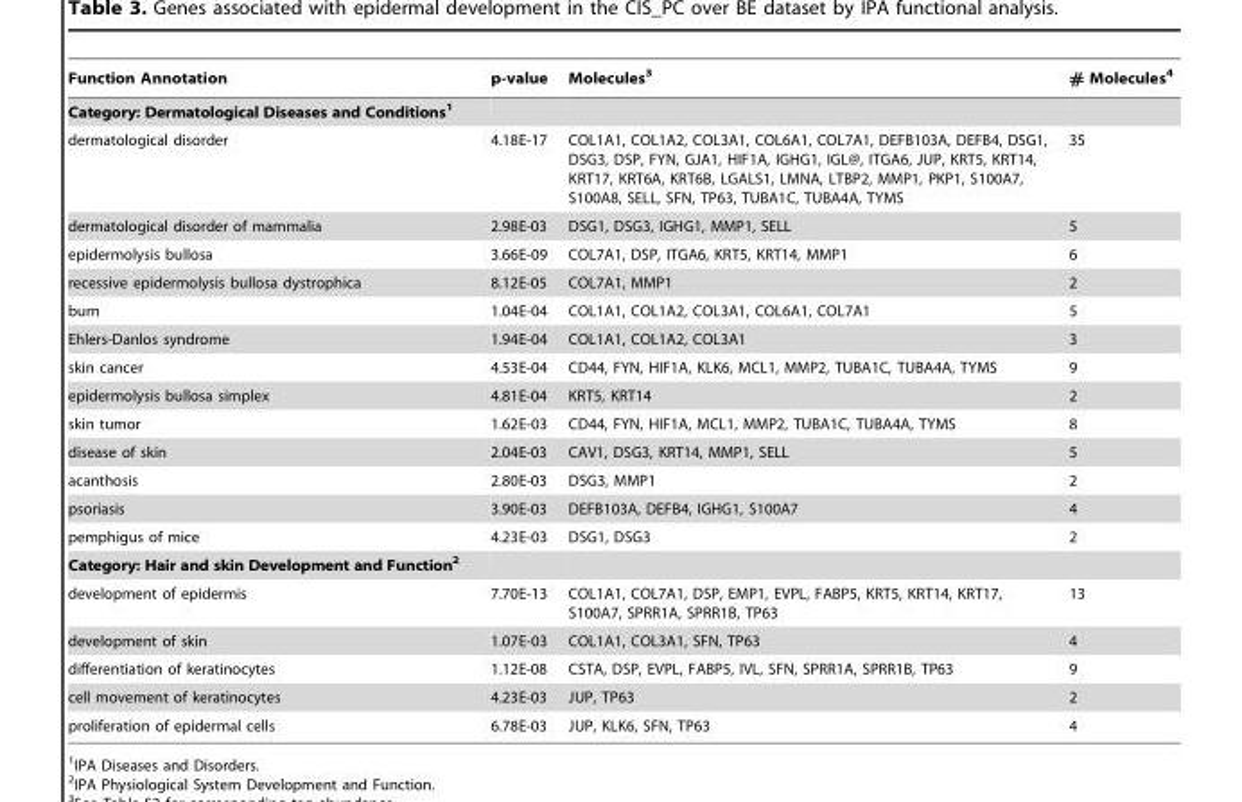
<table><thead><tr><td>Function Annotation</td><td>p-value</td><td>Molecules<sup>3</sup></td><td># Molecules<sup>4</sup></td></tr></thead><tbody><tr><td colspan="4">Category: Dermatological Diseases and Conditions1</td></tr><tr><td>dermatological disorder</td><td>4.18E-17</td><td>COL1A1, COL1A2, COL3A1, COL6A1, COL7A1, DEFB103A, DEFB4, DSG1, DSG3, DSP, FYN, GJA1, HIF1A, IGHG1, IGL@, ITGA6, JUP, KRT5, KRT14, KRT17, KRT6A, KRT6B, LGALS1, LMNA, LTBP2, MMP1, PKP1, S100A7, S100A8, SELL, SFN, TP63, TUBA1C, TUBA4A, TYMS</td><td>35</td></tr><tr><td>dermatological disorder of mammalia</td><td>2.98E-03</td><td>DSG1, DSG3, IGHG1, MMP1, SELL</td><td>5</td></tr><tr><td>epidermolysis bullosa</td><td>3.66E-09</td><td>COL7A1, DSP, ITGA6, KRT5, KRT14, MMP1</td><td>6</td></tr><tr><td>recessive epidermolysis bullosa dystrophica</td><td>8.12E-05</td><td>COL7A1, MMP1</td><td>2</td></tr><tr><td>burn</td><td>1.04E-04</td><td>COL1A1, COL1A2, COL3A1, COL6A1, COL7A1</td><td>5</td></tr><tr><td>Ehlers-Danlos syndrome</td><td>1.94E-04</td><td>COL1A1, COL1A2, COL3A1</td><td>3</td></tr><tr><td>skin cancer</td><td>4.53E-04</td><td>CD44, FYN, HIF1A, KLK6, MCL1, MMP2, TUBA1C, TUBA4A, TYMS</td><td>9</td></tr><tr><td>epidermolysis bullosa simplex</td><td>4.81E-04</td><td>KRT5, KRT14</td><td>2</td></tr><tr><td>skin tumor</td><td>1.62E-03</td><td>CD44, FYN, HIF1A, MCL1, MMP2, TUBA1C, TUBA4A, TYMS</td><td>8</td></tr><tr><td>disease of skin</td><td>2.04E-03</td><td>CAV1, DSG3, KRT14, MMP1, SELL</td><td>5</td></tr><tr><td>acanthosis</td><td>2.80E-03</td><td>DSG3, MMP1</td><td>2</td></tr><tr><td>psoriasis</td><td>3.90E-03</td><td>DEFB103A, DEFB4, IGHG1, S100A7</td><td>4</td></tr><tr><td>pemphigus of mice</td><td>4.23E-03</td><td>DSG1, DSG3</td><td>2</td></tr><tr><td colspan="4">Category: Hair and skin Development and Function2</td></tr><tr><td>development of epidermis</td><td>7.70E-13</td><td>COL1A1, COL7A1, DSP, EMP1, EVPL, FABP5, KRT5, KRT14, KRT17, S100A7, SPRR1A, SPRR1B, TP63</td><td>13</td></tr><tr><td>development of skin</td><td>1.07E-03</td><td>COL1A1, COL3A1, SFN, TP63</td><td>4</td></tr><tr><td>differentiation of keratinocytes</td><td>1.12E-08</td><td>CSTA, DSP, EVPL, FABP5, IVL, SFN, SPRR1A, SPRR1B, TP63</td><td>9</td></tr><tr><td>cell movement of keratinocytes</td><td>4.23E-03</td><td>JUP, TP63</td><td>2</td></tr><tr><td>proliferation of epidermal cells</td><td>6.78E-03</td><td>JUP, KLK6, SFN, TP63</td><td>4</td></tr></tbody></table>